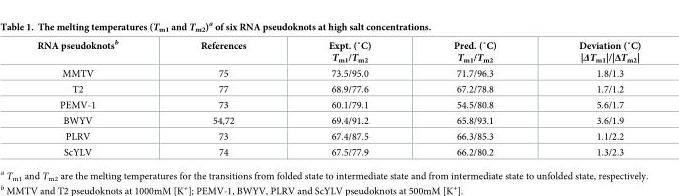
<table><thead><tr><td>RNA pseudoknots<sup>b</sup></td><td>References</td><td>Expt. (˚C) Tm1/Tm2</td><td>Pred. (˚C) Tm1/Tm2</td><td>Deviation (˚C) |ΔTm1|/|ΔTm2|</td></tr></thead><tbody><tr><td>MMTV</td><td>75</td><td>73.5/95.0</td><td>71.7/96.3</td><td>1.8/1.3</td></tr><tr><td>T2</td><td>77</td><td>68.9/77.6</td><td>67.2/78.8</td><td>1.7/1.2</td></tr><tr><td>PEMV-1</td><td>73</td><td>60.1/79.1</td><td>54.5/80.8</td><td>5.6/1.7</td></tr><tr><td>BWYV</td><td>54,72</td><td>69.4/91.2</td><td>65.8/93.1</td><td>3.6/1.9</td></tr><tr><td>PLRV</td><td>73</td><td>67.4/87.5</td><td>66.3/85.3</td><td>1.1/2.2</td></tr><tr><td>ScYLV</td><td>74</td><td>67.5/77.9</td><td>66.2/80.2</td><td>1.3/2.3</td></tr></tbody></table>